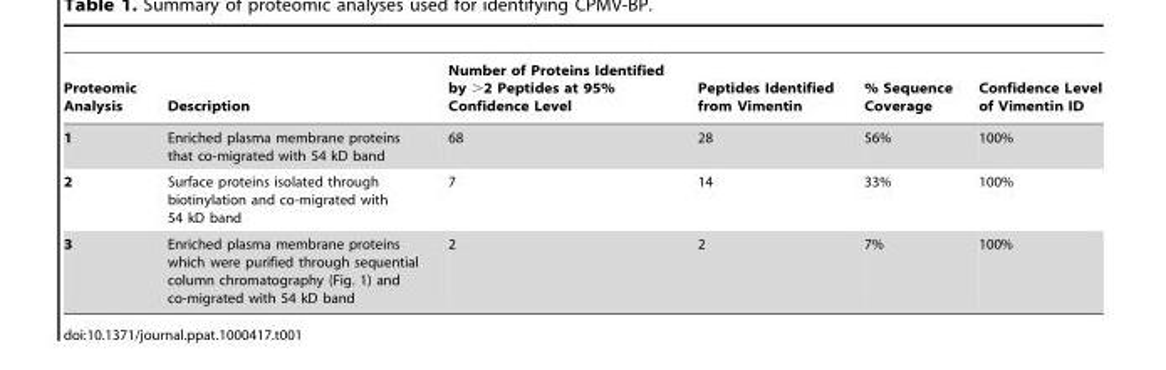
<table><thead><tr><td>Proteomic Analysis</td><td>Description</td><td>Number of Proteins Identified by &gt;2 Peptides at 95% Confidence Level</td><td>Peptides Identified from Vimentin</td><td>% Sequence Coverage</td><td>Confidence Level of Vimentin ID</td></tr></thead><tbody><tr><td>1</td><td>Enriched plasma membrane proteins that co-migrated with 54 kD band</td><td>68</td><td>28</td><td>56%</td><td>100%</td></tr><tr><td>2</td><td>Surface proteins isolated through biotinylation and co-migrated with 54 kD band</td><td>7</td><td>14</td><td>33%</td><td>100%</td></tr><tr><td>3</td><td>Enriched plasma membrane proteins which were purified through sequential column chromatography (Fig. 1) and co-migrated with 54 kD band</td><td>2</td><td>2</td><td>7%</td><td>100%</td></tr></tbody></table>